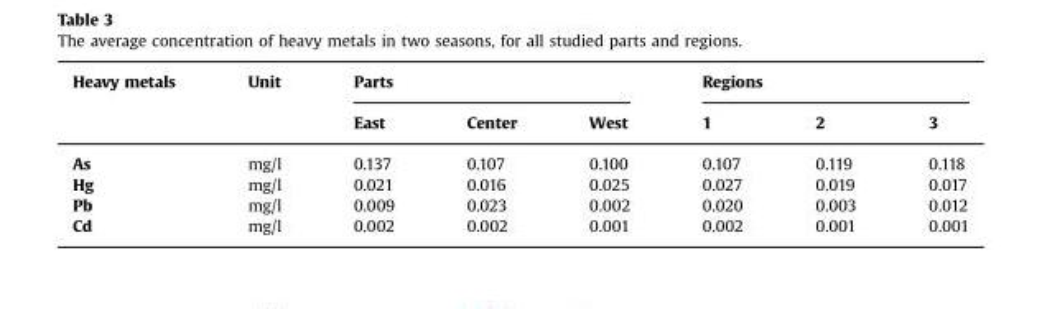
<table><thead><tr><td rowspan="2">Heavy metals</td><td rowspan="2">Unit</td><td colspan="3">Parts</td><td colspan="3">Regions</td></tr><tr><td>East</td><td>Center</td><td>West</td><td>1</td><td>2</td><td>3</td></tr></thead><tbody><tr><td>As</td><td>mg/l</td><td>0.137</td><td>0.107</td><td>0.100</td><td>0.107</td><td>0.119</td><td>0.118</td></tr><tr><td>Hg</td><td>mg/l</td><td>0.021</td><td>0.016</td><td>0.025</td><td>0.027</td><td>0.019</td><td>0.017</td></tr><tr><td>Pb</td><td>mg/l</td><td>0.009</td><td>0.023</td><td>0.002</td><td>0.020</td><td>0.003</td><td>0.012</td></tr><tr><td>Cd</td><td>mg/l</td><td>0.002</td><td>0.002</td><td>0.001</td><td>0.002</td><td>0.001</td><td>0.001</td></tr></tbody></table>